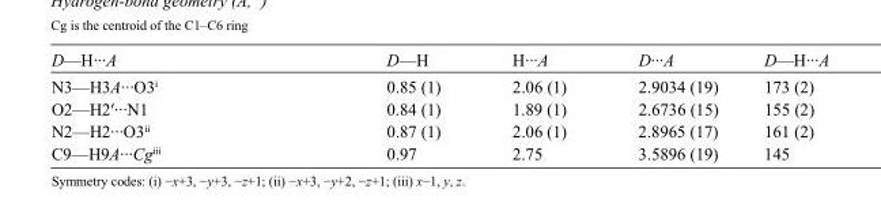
<table><tbody><tr><td>D—H···A</td><td>D—H</td><td>H···A</td><td>D···A</td><td>D—H···A</td></tr><tr><td>N3—H3A···O3<sup>i</sup></td><td>0.85 (1)</td><td>2.06 (1)</td><td>2.9034 (19)</td><td>173 (2)</td></tr><tr><td>O2—H2′···N1</td><td>0.84 (1)</td><td>1.89 (1)</td><td>2.6736 (15)</td><td>155 (2)</td></tr><tr><td>N2—H2···O3<sup>ii</sup></td><td>0.87 (1)</td><td>2.06 (1)</td><td>2.8965 (17)</td><td>161 (2)</td></tr><tr><td>C9—H9A···Cg<sup>iii</sup></td><td>0.97</td><td>2.75</td><td>3.5896 (19)</td><td>145</td></tr></tbody></table>